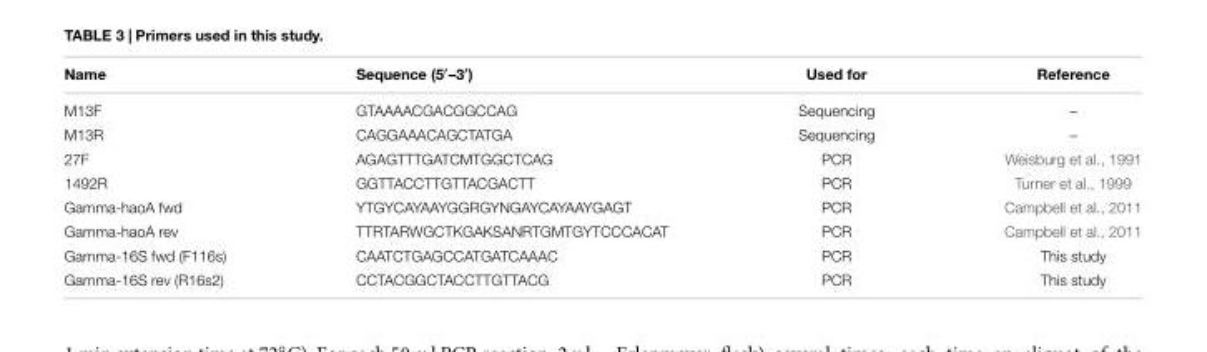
<table><thead><tr><td>Name</td><td>Sequence (5′–3′)</td><td>Used for</td><td>Reference</td></tr></thead><tbody><tr><td>M13F</td><td>GTAAAACGACGGCCAG</td><td>Sequencing</td><td>–</td></tr><tr><td>M13R</td><td>CAGGAAACAGCTATGA</td><td>Sequencing</td><td>–</td></tr><tr><td>27F</td><td>AGAGTTTGATCMTGGCTCAG</td><td>PCR</td><td>Weisburg et al., 1991</td></tr><tr><td>1492R</td><td>GGTTACCTTGTTACGACTT</td><td>PCR</td><td>Turner et al., 1999</td></tr><tr><td>Gamma-haoA fwd</td><td>YTGYCAYAAYGGRGYNGAYCAYAAYGAGT</td><td>PCR</td><td>Campbell et al., 2011</td></tr><tr><td>Gamma-haoA rev</td><td>TTRTARWGCTKGAKSANRTGMTGYTCCCACAT</td><td>PCR</td><td>Campbell et al., 2011</td></tr><tr><td>Gamma-16S fwd (F116s)</td><td>CAATCTGAGCCATGATCAAAC</td><td>PCR</td><td>This study</td></tr><tr><td>Gamma-16S rev (R16s2)</td><td>CCTACGGCTACCTTGTTACG</td><td>PCR</td><td>This study</td></tr></tbody></table>